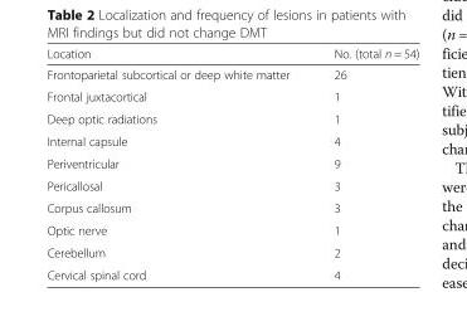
<table><thead><tr><td>Location</td><td>No. (total n = 54)</td></tr></thead><tbody><tr><td>Frontoparietal subcortical or deep white matter</td><td>26</td></tr><tr><td>Frontal juxtacortical</td><td>1</td></tr><tr><td>Deep optic radiations</td><td>1</td></tr><tr><td>Internal capsule</td><td>4</td></tr><tr><td>Periventricular</td><td>9</td></tr><tr><td>Pericallosal</td><td>3</td></tr><tr><td>Corpus callosum</td><td>3</td></tr><tr><td>Optic nerve</td><td>1</td></tr><tr><td>Cerebellum</td><td>2</td></tr><tr><td>Cervical spinal cord</td><td>4</td></tr></tbody></table>